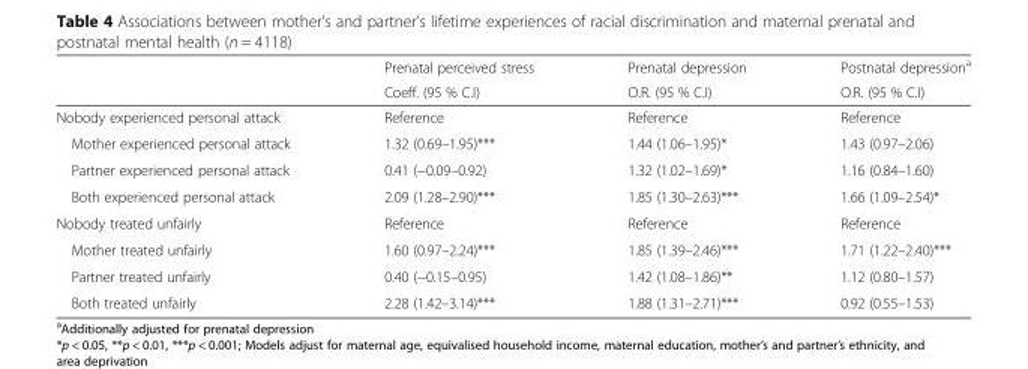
<table><thead><tr><td rowspan="2"></td><td rowspan="2">Prenatal perceived stress Coeff. (95 % C.I)</td><td rowspan="2">Prenatal depression O.R. (95 % C.I)</td><td rowspan="2">Postnatal depression<sup>a</sup> O.R. (95 % C.I)</td></tr><tr></tr></thead><tbody><tr><td>Nobody experienced personal attack</td><td>Reference</td><td>Reference</td><td>Reference</td></tr><tr><td>Mother experienced personal attack</td><td>1.32 (0.69–1.95)***</td><td>1.44 (1.06–1.95)*</td><td>1.43 (0.97–2.06)</td></tr><tr><td>Partner experienced personal attack</td><td>0.41 (−0.09–0.92)</td><td>1.32 (1.02–1.69)*</td><td>1.16 (0.84–1.60)</td></tr><tr><td>Both experienced personal attack</td><td>2.09 (1.28–2.90)***</td><td>1.85 (1.30–2.63)***</td><td>1.66 (1.09–2.54)*</td></tr><tr><td>Nobody treated unfairly</td><td>Reference</td><td>Reference</td><td>Reference</td></tr><tr><td>Mother treated unfairly</td><td>1.60 (0.97–2.24)***</td><td>1.85 (1.39–2.46)***</td><td>1.71 (1.22–2.40)***</td></tr><tr><td>Partner treated unfairly</td><td>0.40 (−0.15–0.95)</td><td>1.42 (1.08–1.86)**</td><td>1.12 (0.80–1.57)</td></tr><tr><td>Both treated unfairly</td><td>2.28 (1.42–3.14)***</td><td>1.88 (1.31–2.71)***</td><td>0.92 (0.55–1.53)</td></tr></tbody></table>